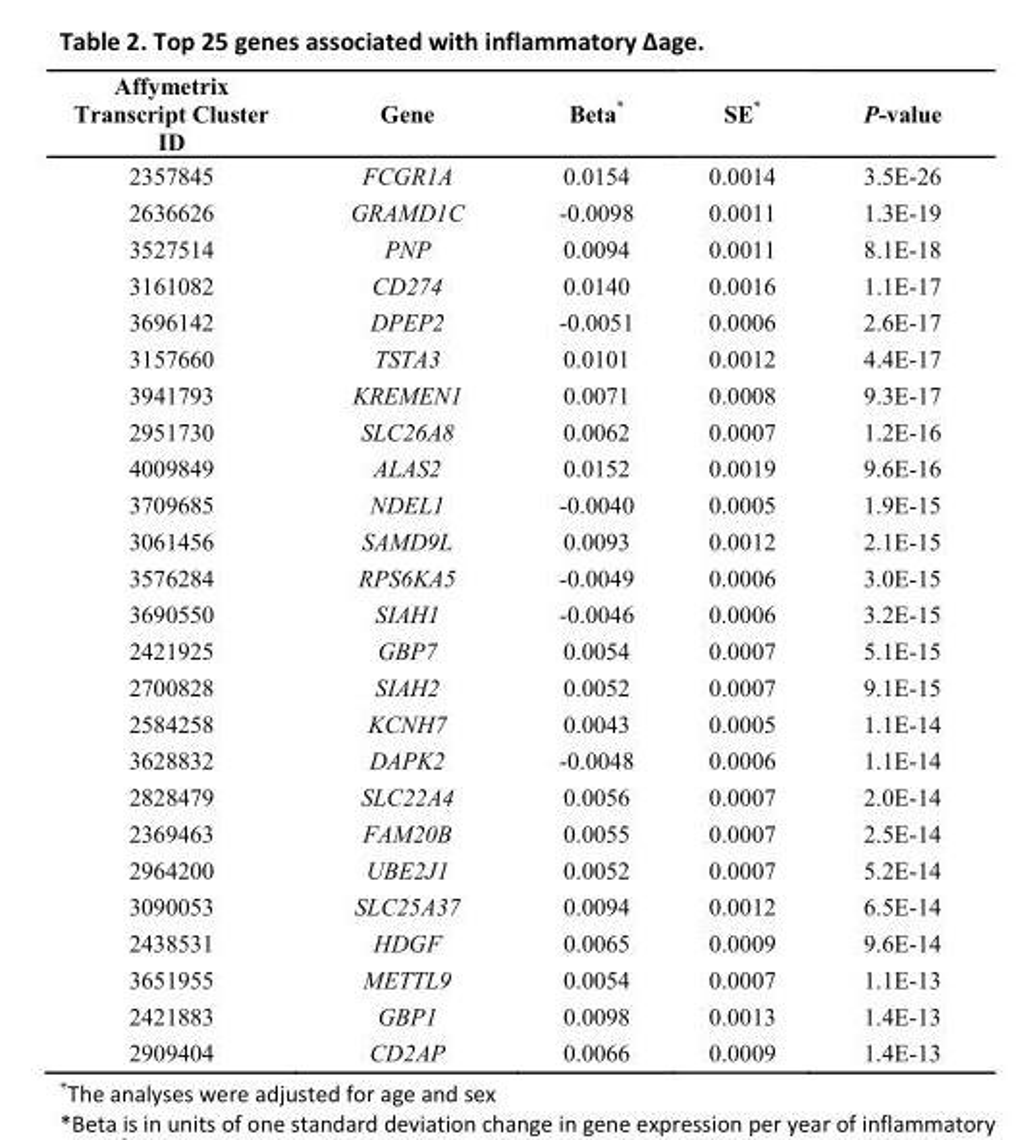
<table><thead><tr><td>Affymetrix Transcript Cluster ID</td><td>Gene</td><td>Beta*</td><td>SE*</td><td>P-value</td></tr></thead><tbody><tr><td>2357845</td><td>FCGR1A</td><td>0.0154</td><td>0.0014</td><td>3.5E-26</td></tr><tr><td>2636626</td><td>GRAMD1C</td><td>-0.0098</td><td>0.0011</td><td>1.3E-19</td></tr><tr><td>3527514</td><td>PNP</td><td>0.0094</td><td>0.0011</td><td>8.1E-18</td></tr><tr><td>3161082</td><td>CD274</td><td>0.0140</td><td>0.0016</td><td>1.1E-17</td></tr><tr><td>3696142</td><td>DPEP2</td><td>-0.0051</td><td>0.0006</td><td>2.6E-17</td></tr><tr><td>3157660</td><td>TSTA3</td><td>0.0101</td><td>0.0012</td><td>4.4E-17</td></tr><tr><td>3941793</td><td>KREMEN1</td><td>0.0071</td><td>0.0008</td><td>9.3E-17</td></tr><tr><td>2951730</td><td>SLC26A8</td><td>0.0062</td><td>0.0007</td><td>1.2E-16</td></tr><tr><td>4009849</td><td>ALAS2</td><td>0.0152</td><td>0.0019</td><td>9.6E-16</td></tr><tr><td>3709685</td><td>NDEL1</td><td>-0.0040</td><td>0.0005</td><td>1.9E-15</td></tr><tr><td>3061456</td><td>SAMD9L</td><td>0.0093</td><td>0.0012</td><td>2.1E-15</td></tr><tr><td>3576284</td><td>RPS6KA5</td><td>-0.0049</td><td>0.0006</td><td>3.0E-15</td></tr><tr><td>3690550</td><td>SIAH1</td><td>-0.0046</td><td>0.0006</td><td>3.2E-15</td></tr><tr><td>2421925</td><td>GBP7</td><td>0.0054</td><td>0.0007</td><td>5.1E-15</td></tr><tr><td>2700828</td><td>SIAH2</td><td>0.0052</td><td>0.0007</td><td>9.1E-15</td></tr><tr><td>2584258</td><td>KCNH7</td><td>0.0043</td><td>0.0005</td><td>1.1E-14</td></tr><tr><td>3628832</td><td>DAPK2</td><td>-0.0048</td><td>0.0006</td><td>1.1E-14</td></tr><tr><td>2828479</td><td>SLC22A4</td><td>0.0056</td><td>0.0007</td><td>2.0E-14</td></tr><tr><td>2369463</td><td>FAM20B</td><td>0.0055</td><td>0.0007</td><td>2.5E-14</td></tr><tr><td>2964200</td><td>UBE2J1</td><td>0.0052</td><td>0.0007</td><td>5.2E-14</td></tr><tr><td>3090053</td><td>SLC25A37</td><td>0.0094</td><td>0.0012</td><td>6.5E-14</td></tr><tr><td>2438531</td><td>HDGF</td><td>0.0065</td><td>0.0009</td><td>9.6E-14</td></tr><tr><td>3651955</td><td>METTL9</td><td>0.0054</td><td>0.0007</td><td>1.1E-13</td></tr><tr><td>2421883</td><td>GBP1</td><td>0.0098</td><td>0.0013</td><td>1.4E-13</td></tr><tr><td>2909404</td><td>CD2AP</td><td>0.0066</td><td>0.0009</td><td>1.4E-13</td></tr></tbody></table>